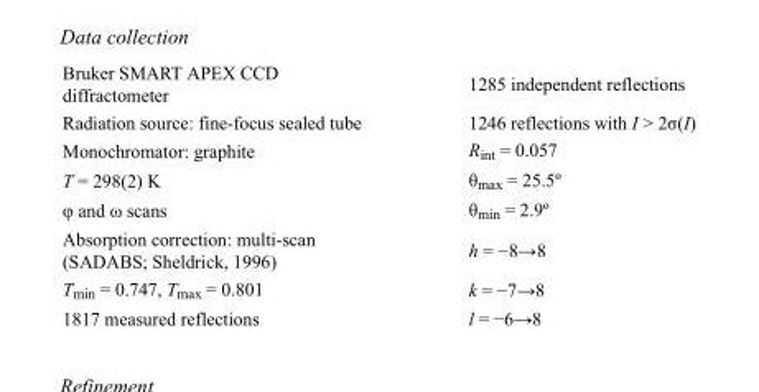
<table><tbody><tr><td>Bruker SMART APEX CCD diffractometer</td><td>1285 independent reflections</td></tr><tr><td>Radiation source: fine-focus sealed tube</td><td>1246 reflections with I &gt; 2σ(I)</td></tr><tr><td>Monochromator: graphite</td><td>R<sub>int</sub> = 0.057</td></tr><tr><td>T = 298(2) K</td><td>θ<sub>max</sub> = 25.5º</td></tr><tr><td>φ and ω scans</td><td>θ<sub>min</sub> = 2.9º</td></tr><tr><td>Absorption correction: multi-scan (SADABS; Sheldrick, 1996)</td><td>h = −8→8</td></tr><tr><td>T<sub>min</sub> = 0.747, T<sub>max</sub> = 0.801</td><td>k = −7→8</td></tr><tr><td>1817 measured reflections</td><td>l = −6→8</td></tr></tbody></table>